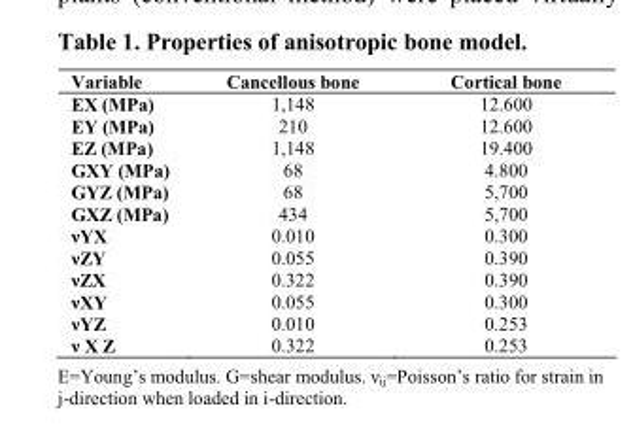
<table><tbody><tr><td>Variable</td><td>Cancellous bone</td><td>Cortical bone</td></tr><tr><td>EX (MPa)</td><td>1,148</td><td>12.600</td></tr><tr><td>EY (MPa)</td><td>210</td><td>12.600</td></tr><tr><td>EZ (MPa)</td><td>1,148</td><td>19.400</td></tr><tr><td>GXY (MPa)</td><td>68</td><td>4.800</td></tr><tr><td>GYZ (MPa)</td><td>68</td><td>5,700</td></tr><tr><td>GXZ (MPa)</td><td>434</td><td>5,700</td></tr><tr><td>νYX</td><td>0.010</td><td>0.300</td></tr><tr><td>νZY</td><td>0.055</td><td>0.390</td></tr><tr><td>νZX</td><td>0.322</td><td>0.390</td></tr><tr><td>νXY</td><td>0.055</td><td>0.300</td></tr><tr><td>νYZ</td><td>0.010</td><td>0.253</td></tr><tr><td>ν X Z</td><td>0.322</td><td>0.253</td></tr></tbody></table>